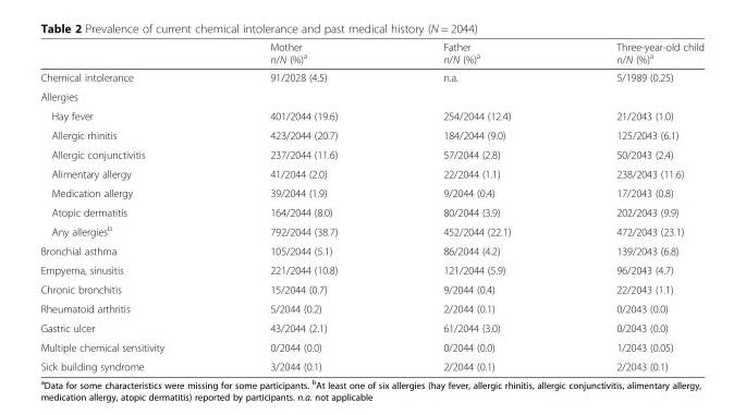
<table><thead><tr><td></td><td>Mother n/N (%)<sup>a</sup></td><td>Father n/N (%)<sup>a</sup></td><td>Three-year-old child n/N (%)<sup>a</sup></td></tr></thead><tbody><tr><td>Chemical intolerance</td><td>91/2028 (4.5)</td><td>n.a.</td><td>5/1989 (0.25)</td></tr><tr><td colspan="4">Allergies</td></tr><tr><td>Hay fever</td><td>401/2044 (19.6)</td><td>254/2044 (12.4)</td><td>21/2043 (1.0)</td></tr><tr><td>Allergic rhinitis</td><td>423/2044 (20.7)</td><td>184/2044 (9.0)</td><td>125/2043 (6.1)</td></tr><tr><td>Allergic conjunctivitis</td><td>237/2044 (11.6)</td><td>57/2044 (2.8)</td><td>50/2043 (2.4)</td></tr><tr><td>Alimentary allergy</td><td>41/2044 (2.0)</td><td>22/2044 (1.1)</td><td>238/2043 (11.6)</td></tr><tr><td>Medication allergy</td><td>39/2044 (1.9)</td><td>9/2044 (0.4)</td><td>17/2043 (0.8)</td></tr><tr><td>Atopic dermatitis</td><td>164/2044 (8.0)</td><td>80/2044 (3.9)</td><td>202/2043 (9.9)</td></tr><tr><td>Any allergies<sup>b</sup></td><td>792/2044 (38.7)</td><td>452/2044 (22.1)</td><td>472/2043 (23.1)</td></tr><tr><td>Bronchial asthma</td><td>105/2044 (5.1)</td><td>86/2044 (4.2)</td><td>139/2043 (6.8)</td></tr><tr><td>Empyema, sinusitis</td><td>221/2044 (10.8)</td><td>121/2044 (5.9)</td><td>96/2043 (4.7)</td></tr><tr><td>Chronic bronchitis</td><td>15/2044 (0.7)</td><td>9/2044 (0.4)</td><td>22/2043 (1.1)</td></tr><tr><td>Rheumatoid arthritis</td><td>5/2044 (0.2)</td><td>2/2044 (0.1)</td><td>0/2043 (0.0)</td></tr><tr><td>Gastric ulcer</td><td>43/2044 (2.1)</td><td>61/2044 (3.0)</td><td>0/2043 (0.0)</td></tr><tr><td>Multiple chemical sensitivity</td><td>0/2044 (0.0)</td><td>0/2044 (0.0)</td><td>1/2043 (0.05)</td></tr><tr><td>Sick building syndrome</td><td>3/2044 (0.1)</td><td>2/2044 (0.1)</td><td>2/2043 (0.1)</td></tr></tbody></table>